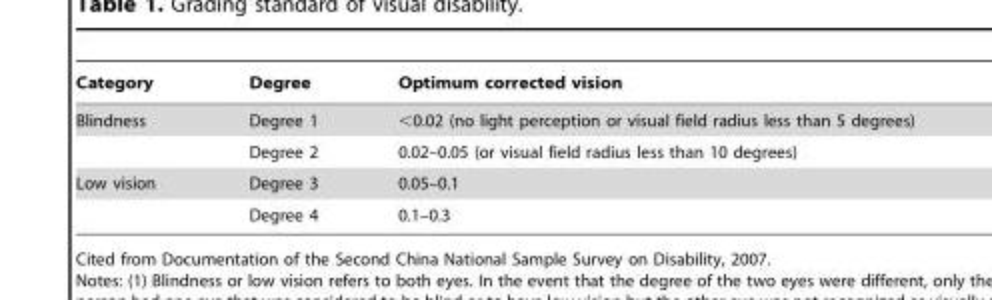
<table><thead><tr><td>Category</td><td>Degree</td><td>Optimum corrected vision</td></tr></thead><tbody><tr><td rowspan="2">Blindness</td><td>Degree 1</td><td>&lt;0.02 (no light perception or visual field radius less than 5 degrees)</td></tr><tr><td>Degree 2</td><td>0.02–0.05 (or visual field radius less than 10 degrees)</td></tr><tr><td rowspan="2">Low vision</td><td>Degree 3</td><td>0.05–0.1</td></tr><tr><td>Degree 4</td><td>0.1–0.3</td></tr></tbody></table>